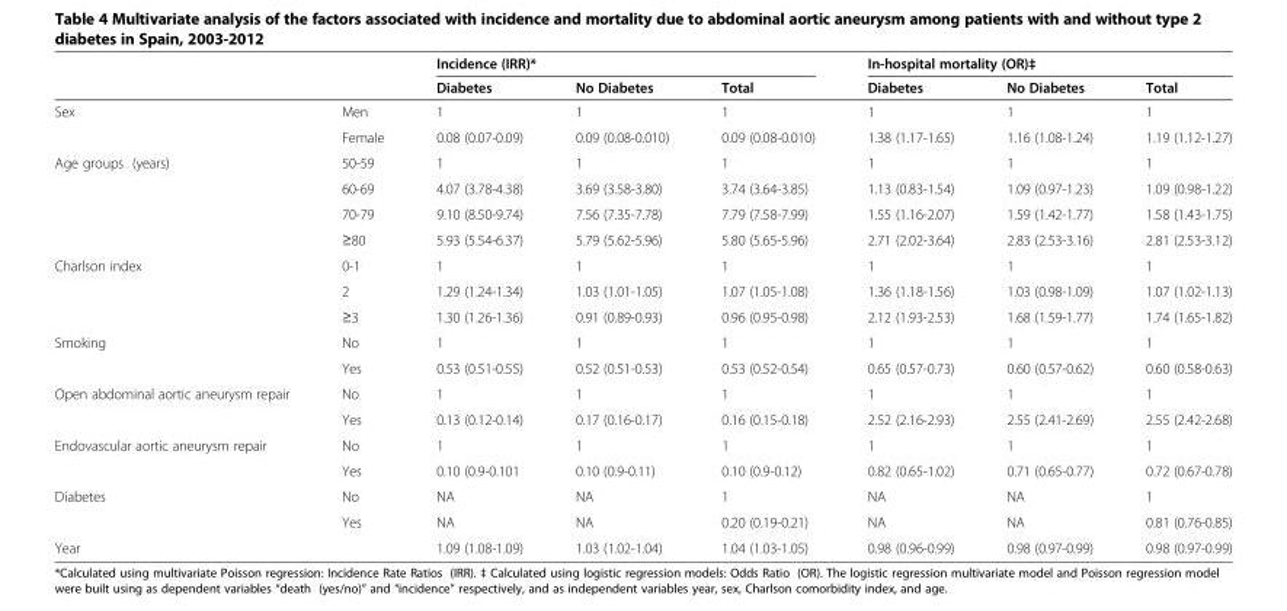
<table><thead><tr><td rowspan="2"></td><td rowspan="2"></td><td colspan="3">Incidence (IRR)*</td><td colspan="3">In-hospital mortality (OR)‡</td></tr><tr><td>Diabetes</td><td>No Diabetes</td><td>Total</td><td>Diabetes</td><td>No Diabetes</td><td>Total</td></tr></thead><tbody><tr><td rowspan="2">Sex</td><td>Men</td><td>1</td><td>1</td><td>1</td><td>1</td><td>1</td><td>1</td></tr><tr><td>Female</td><td>0.08 (0.07-0.09)</td><td>0.09 (0.08-0.010)</td><td>0.09 (0.08-0.010)</td><td>1.38 (1.17-1.65)</td><td>1.16 (1.08-1.24)</td><td>1.19 (1.12-1.27)</td></tr><tr><td rowspan="4">Age groups (years)</td><td>50-59</td><td>1</td><td>1</td><td>1</td><td>1</td><td>1</td><td>1</td></tr><tr><td>60-69</td><td>4.07 (3.78-4.38)</td><td>3.69 (3.58-3.80)</td><td>3.74 (3.64-3.85)</td><td>1.13 (0.83-1.54)</td><td>1.09 (0.97-1.23)</td><td>1.09 (0.98-1.22)</td></tr><tr><td>70-79</td><td>9.10 (8.50-9.74)</td><td>7.56 (7.35-7.78)</td><td>7.79 (7.58-7.99)</td><td>1.55 (1.16-2.07)</td><td>1.59 (1.42-1.77)</td><td>1.58 (1.43-1.75)</td></tr><tr><td>≥80</td><td>5.93 (5.54-6.37)</td><td>5.79 (5.62-5.96)</td><td>5.80 (5.65-5.96)</td><td>2.71 (2.02-3.64)</td><td>2.83 (2.53-3.16)</td><td>2.81 (2.53-3.12)</td></tr><tr><td rowspan="3">Charlson index</td><td>0-1</td><td>1</td><td>1</td><td>1</td><td>1</td><td>1</td><td>1</td></tr><tr><td>2</td><td>1.29 (1.24-1.34)</td><td>1.03 (1.01-1.05)</td><td>1.07 (1.05-1.08)</td><td>1.36 (1.18-1.56)</td><td>1.03 (0.98-1.09)</td><td>1.07 (1.02-1.13)</td></tr><tr><td>≥3</td><td>1.30 (1.26-1.36)</td><td>0.91 (0.89-0.93)</td><td>0.96 (0.95-0.98)</td><td>2.12 (1.93-2.53)</td><td>1.68 (1.59-1.77)</td><td>1.74 (1.65-1.82)</td></tr><tr><td rowspan="2">Smoking</td><td>No</td><td>1</td><td>1</td><td>1</td><td>1</td><td>1</td><td>1</td></tr><tr><td>Yes</td><td>0.53 (0.51-0.55)</td><td>0.52 (0.51-0.53)</td><td>0.53 (0.52-0.54)</td><td>0.65 (0.57-0.73)</td><td>0.60 (0.57-0.62)</td><td>0.60 (0.58-0.63)</td></tr><tr><td rowspan="2">Open abdominal aortic aneurysm repair</td><td>No</td><td>1</td><td>1</td><td>1</td><td>1</td><td>1</td><td>1</td></tr><tr><td>Yes</td><td>0.13 (0.12-0.14)</td><td>0.17 (0.16-0.17)</td><td>0.16 (0.15-0.18)</td><td>2.52 (2.16-2.93)</td><td>2.55 (2.41-2.69)</td><td>2.55 (2.42-2.68)</td></tr><tr><td rowspan="2">Endovascular aortic aneurysm repair</td><td>No</td><td>1</td><td>1</td><td>1</td><td>1</td><td>1</td><td>1</td></tr><tr><td>Yes</td><td>0.10 (0.9-0.101</td><td>0.10 (0.9-0.11)</td><td>0.10 (0.9-0.12)</td><td>0.82 (0.65-1.02)</td><td>0.71 (0.65-0.77)</td><td>0.72 (0.67-0.78)</td></tr><tr><td rowspan="2">Diabetes</td><td>No</td><td>NA</td><td>NA</td><td>1</td><td>NA</td><td>NA</td><td>1</td></tr><tr><td>Yes</td><td>NA</td><td>NA</td><td>0.20 (0.19-0.21)</td><td>NA</td><td>NA</td><td>0.81 (0.76-0.85)</td></tr><tr><td>Year</td><td></td><td>1.09 (1.08-1.09)</td><td>1.03 (1.02-1.04)</td><td>1.04 (1.03-1.05)</td><td>0.98 (0.96-0.99)</td><td>0.98 (0.97-0.99)</td><td>0.98 (0.97-0.99)</td></tr></tbody></table>